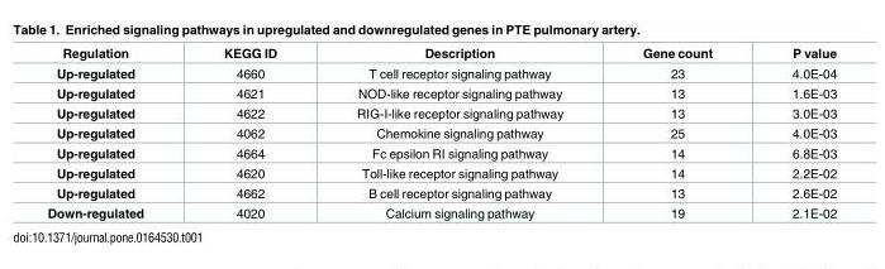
<table><thead><tr><td>Regulation</td><td>KEGG ID</td><td>Description</td><td>Gene count</td><td>P value</td></tr></thead><tbody><tr><td>Up-regulated</td><td>4660</td><td>T cell receptor signaling pathway</td><td>23</td><td>4.0E-04</td></tr><tr><td>Up-regulated</td><td>4621</td><td>NOD-like receptor signaling pathway</td><td>13</td><td>1.6E-03</td></tr><tr><td>Up-regulated</td><td>4622</td><td>RIG-I-like receptor signaling pathway</td><td>13</td><td>3.0E-03</td></tr><tr><td>Up-regulated</td><td>4062</td><td>Chemokine signaling pathway</td><td>25</td><td>4.0E-03</td></tr><tr><td>Up-regulated</td><td>4664</td><td>Fc epsilon RI signaling pathway</td><td>14</td><td>6.8E-03</td></tr><tr><td>Up-regulated</td><td>4620</td><td>Toll-like receptor signaling pathway</td><td>14</td><td>2.2E-02</td></tr><tr><td>Up-regulated</td><td>4662</td><td>B cell receptor signaling pathway</td><td>13</td><td>2.6E-02</td></tr><tr><td>Down-regulated</td><td>4020</td><td>Calcium signaling pathway</td><td>19</td><td>2.1E-02</td></tr></tbody></table>